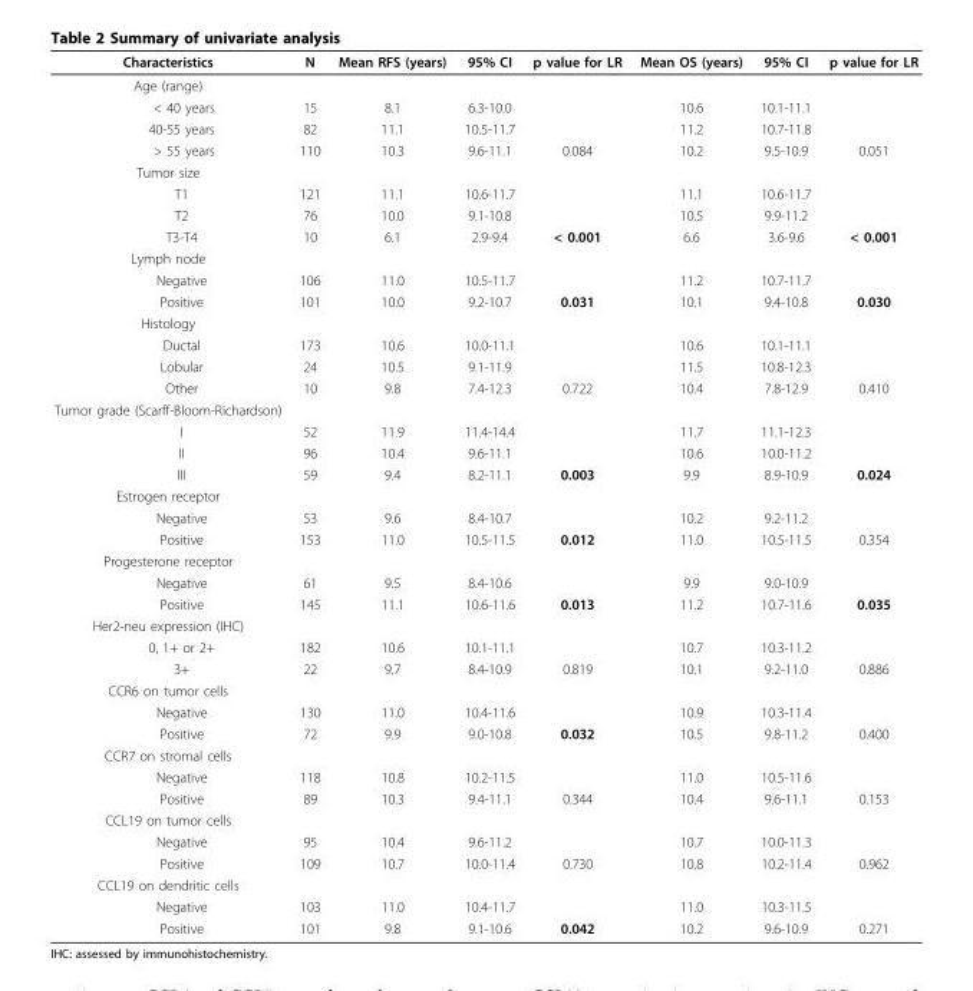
<table><thead><tr><td>Characteristics</td><td>N</td><td>Mean RFS (years)</td><td>95% CI</td><td>p value for LR</td><td>Mean OS (years)</td><td>95% CI</td><td>p value for LR</td></tr></thead><tbody><tr><td colspan="8">Age (range)</td></tr><tr><td>&lt; 40 years</td><td>15</td><td>8.1</td><td>6.3-10.0</td><td></td><td>10.6</td><td>10.1-11.1</td><td></td></tr><tr><td>40-55 years</td><td>82</td><td>11.1</td><td>10.5-11.7</td><td></td><td>11.2</td><td>10.7-11.8</td><td></td></tr><tr><td>&gt; 55 years</td><td>110</td><td>10.3</td><td>9.6-11.1</td><td>0.084</td><td>10.2</td><td>9.5-10.9</td><td>0.051</td></tr><tr><td colspan="8">Tumor size</td></tr><tr><td>T1</td><td>121</td><td>11.1</td><td>10.6-11.7</td><td></td><td>11.1</td><td>10.6-11.7</td><td></td></tr><tr><td>T2</td><td>76</td><td>10.0</td><td>9.1-10.8</td><td></td><td>10.5</td><td>9.9-11.2</td><td></td></tr><tr><td>T3-T4</td><td>10</td><td>6.1</td><td>2.9-9.4</td><td>&lt; 0.001</td><td>6.6</td><td>3.6-9.6</td><td>&lt; 0.001</td></tr><tr><td colspan="8">Lymph node</td></tr><tr><td>Negative</td><td>106</td><td>11.0</td><td>10.5-11.7</td><td></td><td>11.2</td><td>10.7-11.7</td><td></td></tr><tr><td>Positive</td><td>101</td><td>10.0</td><td>9.2-10.7</td><td>0.031</td><td>10.1</td><td>9.4-10.8</td><td>0.030</td></tr><tr><td colspan="8">Histology</td></tr><tr><td>Ductal</td><td>173</td><td>10.6</td><td>10.0-11.1</td><td></td><td>10.6</td><td>10.1-11.1</td><td></td></tr><tr><td>Lobular</td><td>24</td><td>10.5</td><td>9.1-11.9</td><td></td><td>11.5</td><td>10.8-12.3</td><td></td></tr><tr><td>Other</td><td>10</td><td>9.8</td><td>7.4-12.3</td><td>0.722</td><td>10.4</td><td>7.8-12.9</td><td>0.410</td></tr><tr><td colspan="8">Tumor grade (Scarff-Bloom-Richardson)</td></tr><tr><td>I</td><td>52</td><td>11.9</td><td>11.4-14.4</td><td></td><td>11.7</td><td>11.1-12.3</td><td></td></tr><tr><td>II</td><td>96</td><td>10.4</td><td>9.6-11.1</td><td></td><td>10.6</td><td>10.0-11.2</td><td></td></tr><tr><td>III</td><td>59</td><td>9.4</td><td>8.2-11.1</td><td>0.003</td><td>9.9</td><td>8.9-10.9</td><td>0.024</td></tr><tr><td colspan="8">Estrogen receptor</td></tr><tr><td>Negative</td><td>53</td><td>9.6</td><td>8.4-10.7</td><td></td><td>10.2</td><td>9.2-11.2</td><td></td></tr><tr><td>Positive</td><td>153</td><td>11.0</td><td>10.5-11.5</td><td>0.012</td><td>11.0</td><td>10.5-11.5</td><td>0.354</td></tr><tr><td colspan="8">Progesterone receptor</td></tr><tr><td>Negative</td><td>61</td><td>9.5</td><td>8.4-10.6</td><td></td><td>9.9</td><td>9.0-10.9</td><td></td></tr><tr><td>Positive</td><td>145</td><td>11.1</td><td>10.6-11.6</td><td>0.013</td><td>11.2</td><td>10.7-11.6</td><td>0.035</td></tr><tr><td colspan="8">Her2-neu expression (IHC)</td></tr><tr><td>0, 1+ or 2+</td><td>182</td><td>10.6</td><td>10.1-11.1</td><td></td><td>10.7</td><td>10.3-11.2</td><td></td></tr><tr><td>3+</td><td>22</td><td>9.7</td><td>8.4-10.9</td><td>0.819</td><td>10.1</td><td>9.2-11.0</td><td>0.886</td></tr><tr><td colspan="8">CCR6 on tumor cells</td></tr><tr><td>Negative</td><td>130</td><td>11.0</td><td>10.4-11.6</td><td></td><td>10.9</td><td>10.3-11.4</td><td></td></tr><tr><td>Positive</td><td>72</td><td>9.9</td><td>9.0-10.8</td><td>0.032</td><td>10.5</td><td>9.8-11.2</td><td>0.400</td></tr><tr><td colspan="8">CCR7 on stromal cells</td></tr><tr><td>Negative</td><td>118</td><td>10.8</td><td>10.2-11.5</td><td></td><td>11.0</td><td>10.5-11.6</td><td></td></tr><tr><td>Positive</td><td>89</td><td>10.3</td><td>9.4-11.1</td><td>0.344</td><td>10.4</td><td>9.6-11.1</td><td>0.153</td></tr><tr><td colspan="8">CCL19 on tumor cells</td></tr><tr><td>Negative</td><td>95</td><td>10.4</td><td>9.6-11.2</td><td></td><td>10.7</td><td>10.0-11.3</td><td></td></tr><tr><td>Positive</td><td>109</td><td>10.7</td><td>10.0-11.4</td><td>0.730</td><td>10.8</td><td>10.2-11.4</td><td>0.962</td></tr><tr><td colspan="8">CCL19 on dendritic cells</td></tr><tr><td>Negative</td><td>103</td><td>11.0</td><td>10.4-11.7</td><td></td><td>11.0</td><td>10.3-11.5</td><td></td></tr><tr><td>Positive</td><td>101</td><td>9.8</td><td>9.1-10.6</td><td>0.042</td><td>10.2</td><td>9.6-10.9</td><td>0.271</td></tr></tbody></table>